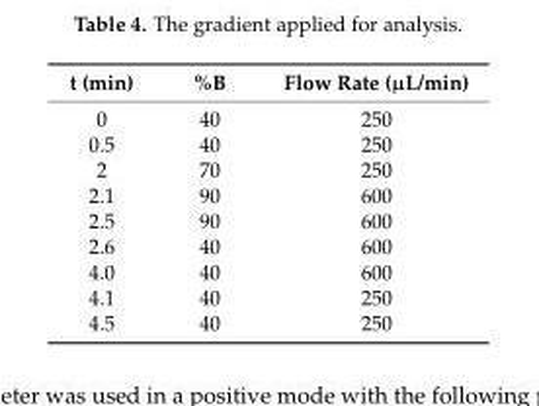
<table><thead><tr><td>t (min)</td><td>%B</td><td>Flow Rate (µL/min)</td></tr></thead><tbody><tr><td>0</td><td>40</td><td>250</td></tr><tr><td>0.5</td><td>40</td><td>250</td></tr><tr><td>2</td><td>70</td><td>250</td></tr><tr><td>2.1</td><td>90</td><td>600</td></tr><tr><td>2.5</td><td>90</td><td>600</td></tr><tr><td>2.6</td><td>40</td><td>600</td></tr><tr><td>4.0</td><td>40</td><td>600</td></tr><tr><td>4.1</td><td>40</td><td>250</td></tr><tr><td>4.5</td><td>40</td><td>250</td></tr></tbody></table>